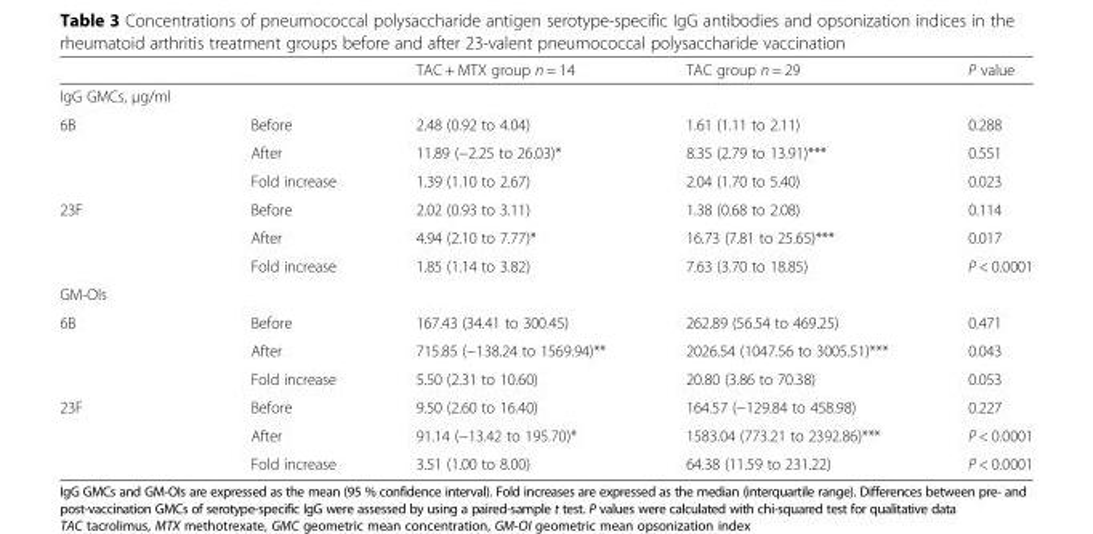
<table><thead><tr><td></td><td></td><td>TAC + MTX group n = 14</td><td>TAC group n = 29</td><td>P value</td></tr></thead><tbody><tr><td colspan="5">IgG GMCs, μg/ml</td></tr><tr><td rowspan="3">6B</td><td>Before</td><td>2.48 (0.92 to 4.04)</td><td>1.61 (1.11 to 2.11)</td><td>0.288</td></tr><tr><td>After</td><td>11.89 (−2.25 to 26.03)*</td><td>8.35 (2.79 to 13.91)***</td><td>0.551</td></tr><tr><td>Fold increase</td><td>1.39 (1.10 to 2.67)</td><td>2.04 (1.70 to 5.40)</td><td>0.023</td></tr><tr><td rowspan="3">23F</td><td>Before</td><td>2.02 (0.93 to 3.11)</td><td>1.38 (0.68 to 2.08)</td><td>0.114</td></tr><tr><td>After</td><td>4.94 (2.10 to 7.77)*</td><td>16.73 (7.81 to 25.65)***</td><td>0.017</td></tr><tr><td>Fold increase</td><td>1.85 (1.14 to 3.82)</td><td>7.63 (3.70 to 18.85)</td><td>P &lt; 0.0001</td></tr><tr><td colspan="5">GM-OIs</td></tr><tr><td rowspan="3">6B</td><td>Before</td><td>167.43 (34.41 to 300.45)</td><td>262.89 (56.54 to 469.25)</td><td>0.471</td></tr><tr><td>After</td><td>715.85 (−138.24 to 1569.94)**</td><td>2026.54 (1047.56 to 3005.51)***</td><td>0.043</td></tr><tr><td>Fold increase</td><td>5.50 (2.31 to 10.60)</td><td>20.80 (3.86 to 70.38)</td><td>0.053</td></tr><tr><td rowspan="3">23F</td><td>Before</td><td>9.50 (2.60 to 16.40)</td><td>164.57 (−129.84 to 458.98)</td><td>0.227</td></tr><tr><td>After</td><td>91.14 (−13.42 to 195.70)*</td><td>1583.04 (773.21 to 2392.86)***</td><td>P &lt; 0.0001</td></tr><tr><td>Fold increase</td><td>3.51 (1.00 to 8.00)</td><td>64.38 (11.59 to 231.22)</td><td>P &lt; 0.0001</td></tr></tbody></table>